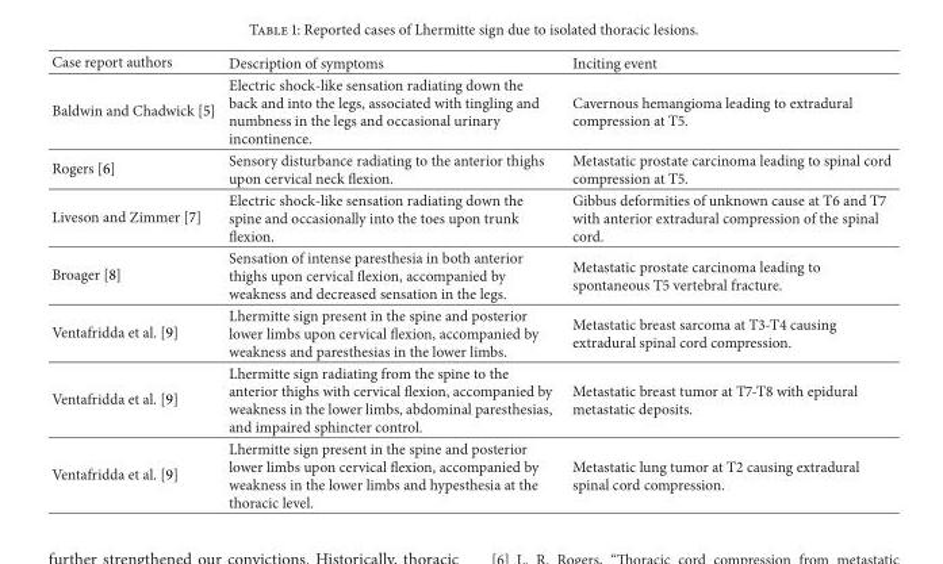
<table><thead><tr><td>Case report authors</td><td>Description of symptoms</td><td>Inciting event</td></tr></thead><tbody><tr><td>Baldwin and Chadwick [5]</td><td>Electric shock-like sensation radiating down the back and into the legs, associated with tingling and numbness in the legs and occasional urinary incontinence.</td><td>Cavernous hemangioma leading to extradural compression at T5.</td></tr><tr><td>Rogers [6]</td><td>Sensory disturbance radiating to the anterior thighs upon cervical neck flexion.</td><td>Metastatic prostate carcinoma leading to spinal cord compression at T5.</td></tr><tr><td>Liveson and Zimmer [7]</td><td>Electric shock-like sensation radiating down the spine and occasionally into the toes upon trunk flexion.</td><td>Gibbus deformities of unknown cause at T6 and T7 with anterior extradural compression of the spinal cord.</td></tr><tr><td>Broager [8]</td><td>Sensation of intense paresthesia in both anterior thighs upon cervical flexion, accompanied by weakness and decreased sensation in the legs.</td><td>Metastatic prostate carcinoma leading to spontaneous T5 vertebral fracture.</td></tr><tr><td>Ventafridda et al. [9]</td><td>Lhermitte sign present in the spine and posterior lower limbs upon cervical flexion, accompanied by weakness and paresthesias in the lower limbs.</td><td>Metastatic breast sarcoma at T3-T4 causing extradural spinal cord compression.</td></tr><tr><td>Ventafridda et al. [9]</td><td>Lhermitte sign radiating from the spine to the anterior thighs with cervical flexion, accompanied by weakness in the lower limbs, abdominal paresthesias, and impaired sphincter control.</td><td>Metastatic breast tumor at T7-T8 with epidural metastatic deposits.</td></tr><tr><td>Ventafridda et al. [9]</td><td>Lhermitte sign present in the spine and posterior lower limbs upon cervical flexion, accompanied by weakness in the lower limbs and hypesthesia at the thoracic level.</td><td>Metastatic lung tumor at T2 causing extradural spinal cord compression.</td></tr></tbody></table>